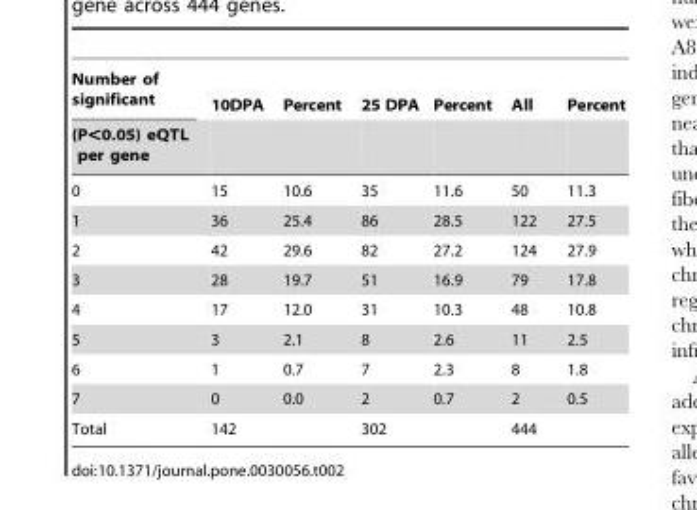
<table><thead><tr><td rowspan="2">Number of significant (P&lt;0.05) eQTL per gene</td><td rowspan="2">10DPA</td><td rowspan="2">Percent</td><td rowspan="2">25 DPA</td><td rowspan="2">Percent</td><td rowspan="2">All</td><td rowspan="2">Percent</td></tr><tr></tr></thead><tbody><tr><td>0</td><td>15</td><td>10.6</td><td>35</td><td>11.6</td><td>50</td><td>11.3</td></tr><tr><td>1</td><td>36</td><td>25.4</td><td>86</td><td>28.5</td><td>122</td><td>27.5</td></tr><tr><td>2</td><td>42</td><td>29.6</td><td>82</td><td>27.2</td><td>124</td><td>27.9</td></tr><tr><td>3</td><td>28</td><td>19.7</td><td>51</td><td>16.9</td><td>79</td><td>17.8</td></tr><tr><td>4</td><td>17</td><td>12.0</td><td>31</td><td>10.3</td><td>48</td><td>10.8</td></tr><tr><td>5</td><td>3</td><td>2.1</td><td>8</td><td>2.6</td><td>11</td><td>2.5</td></tr><tr><td>6</td><td>1</td><td>0.7</td><td>7</td><td>2.3</td><td>8</td><td>1.8</td></tr><tr><td>7</td><td>0</td><td>0.0</td><td>2</td><td>0.7</td><td>2</td><td>0.5</td></tr><tr><td>Total</td><td>142</td><td></td><td>302</td><td></td><td>444</td><td></td></tr></tbody></table>